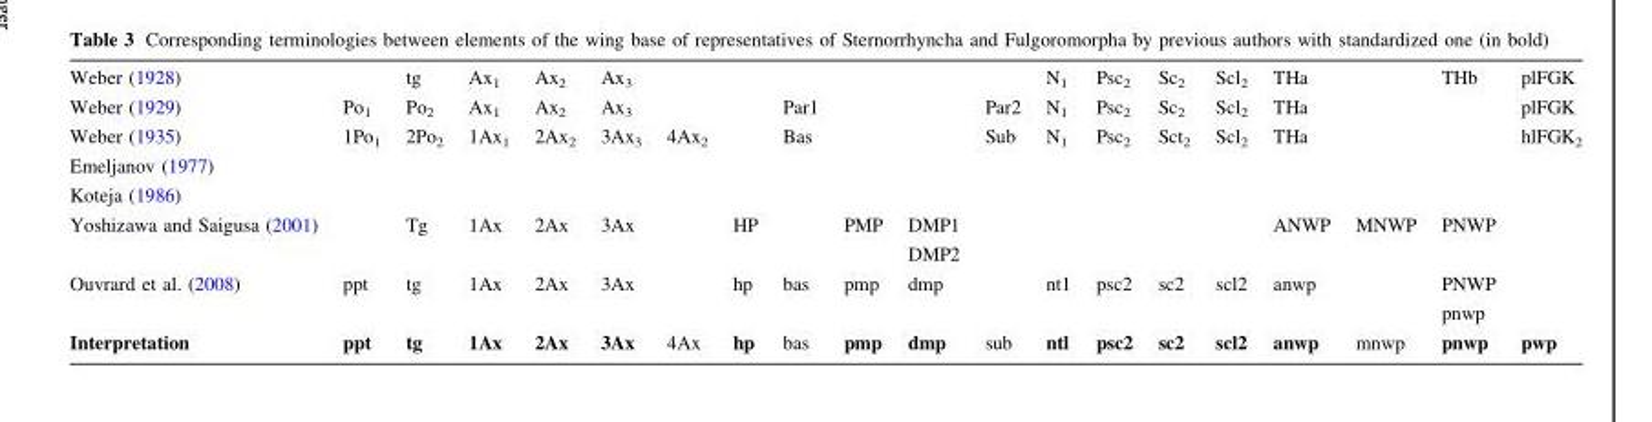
<table><tbody><tr><td>Weber (1928)</td><td></td><td>tg</td><td>Ax<sub>1</sub></td><td>Ax<sub>2</sub></td><td>Ax<sub>3</sub></td><td></td><td></td><td></td><td></td><td></td><td></td><td>N<sub>1</sub></td><td>Psc<sub>2</sub></td><td>Sc<sub>2</sub></td><td>Scl<sub>2</sub></td><td>THa</td><td></td><td>THb</td><td>plFGK</td></tr><tr><td>Weber (1929)</td><td>Po<sub>1</sub></td><td>Po<sub>2</sub></td><td>Ax<sub>1</sub></td><td>Ax<sub>2</sub></td><td>Ax<sub>3</sub></td><td></td><td></td><td>Par1</td><td></td><td></td><td>Par2</td><td>N<sub>1</sub></td><td>Psc<sub>2</sub></td><td>Sc<sub>2</sub></td><td>Scl<sub>2</sub></td><td>THa</td><td></td><td></td><td>plFGK</td></tr><tr><td>Weber (1935)</td><td>1Po<sub>1</sub></td><td>2Po<sub>2</sub></td><td>1Ax<sub>1</sub></td><td>2Ax<sub>2</sub></td><td>3Ax<sub>3</sub></td><td>4Ax<sub>2</sub></td><td></td><td>Bas</td><td></td><td></td><td>Sub</td><td>N<sub>1</sub></td><td>Psc<sub>2</sub></td><td>Sct<sub>2</sub></td><td>Scl<sub>2</sub></td><td>THa</td><td></td><td></td><td>hlFGK<sub>2</sub></td></tr><tr><td colspan="20">Emeljanov (1977)</td></tr><tr><td colspan="20">Koteja (1986)</td></tr><tr><td>Yoshizawa and Saigusa (2001)</td><td></td><td>Tg</td><td>1Ax</td><td>2Ax</td><td>3Ax</td><td></td><td>HP</td><td></td><td>PMP</td><td>DMP1 DMP2</td><td></td><td></td><td></td><td></td><td></td><td>ANWP</td><td>MNWP</td><td>PNWP</td><td></td></tr><tr><td>Ouvrard et al. (2008)</td><td>ppt</td><td>tg</td><td>1Ax</td><td>2Ax</td><td>3Ax</td><td></td><td>hp</td><td>bas</td><td>pmp</td><td>dmp</td><td></td><td>nt1</td><td>psc2</td><td>sc2</td><td>scl2</td><td>anwp</td><td></td><td>PNWP pnwp</td><td></td></tr><tr><td>Interpretation</td><td>ppt</td><td>tg</td><td>1Ax</td><td>2Ax</td><td>3Ax</td><td>4Ax</td><td>hp</td><td>bas</td><td>pmp</td><td>dmp</td><td>sub</td><td>ntl</td><td>psc2</td><td>sc2</td><td>scl2</td><td>anwp</td><td>mnwp</td><td>pnwp</td><td>pwp</td></tr></tbody></table>